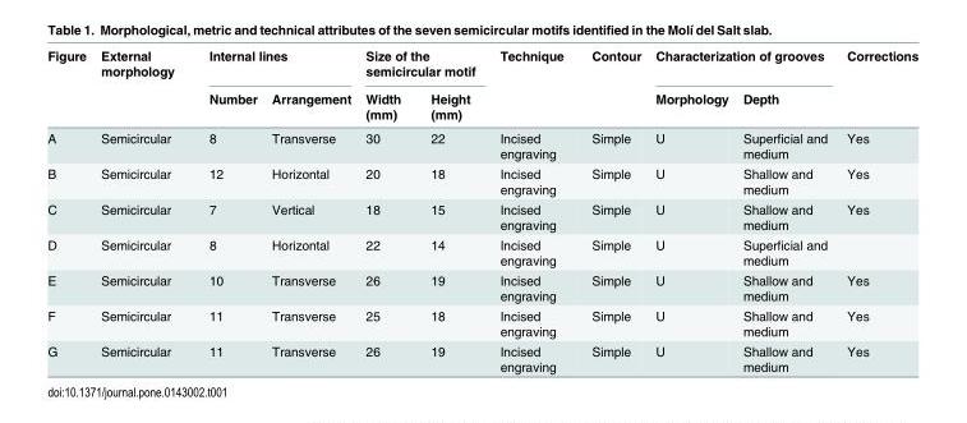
<table><thead><tr><td rowspan="2">Figure</td><td rowspan="2">External morphology</td><td colspan="2">Internal lines</td><td colspan="2">Size of the semicircular motif</td><td rowspan="2">Technique</td><td rowspan="2">Contour</td><td colspan="2">Characterization of grooves</td><td rowspan="2">Corrections</td></tr><tr><td>Number</td><td>Arrangement</td><td>Width (mm)</td><td>Height (mm)</td><td>Morphology</td><td>Depth</td></tr></thead><tbody><tr><td>A</td><td>Semicircular</td><td>8</td><td>Transverse</td><td>30</td><td>22</td><td>Incised engraving</td><td>Simple</td><td>U</td><td>Superficial and medium</td><td>Yes</td></tr><tr><td>B</td><td>Semicircular</td><td>12</td><td>Horizontal</td><td>20</td><td>18</td><td>Incised engraving</td><td>Simple</td><td>U</td><td>Shallow and medium</td><td>Yes</td></tr><tr><td>C</td><td>Semicircular</td><td>7</td><td>Vertical</td><td>18</td><td>15</td><td>Incised engraving</td><td>Simple</td><td>U</td><td>Shallow and medium</td><td>Yes</td></tr><tr><td>D</td><td>Semicircular</td><td>8</td><td>Horizontal</td><td>22</td><td>14</td><td>Incised engraving</td><td>Simple</td><td>U</td><td>Superficial and medium</td><td></td></tr><tr><td>E</td><td>Semicircular</td><td>10</td><td>Transverse</td><td>26</td><td>19</td><td>Incised engraving</td><td>Simple</td><td>U</td><td>Shallow and medium</td><td>Yes</td></tr><tr><td>F</td><td>Semicircular</td><td>11</td><td>Transverse</td><td>25</td><td>18</td><td>Incised engraving</td><td>Simple</td><td>U</td><td>Shallow and medium</td><td>Yes</td></tr><tr><td>G</td><td>Semicircular</td><td>11</td><td>Transverse</td><td>26</td><td>19</td><td>Incised engraving</td><td>Simple</td><td>U</td><td>Shallow and medium</td><td>Yes</td></tr></tbody></table>